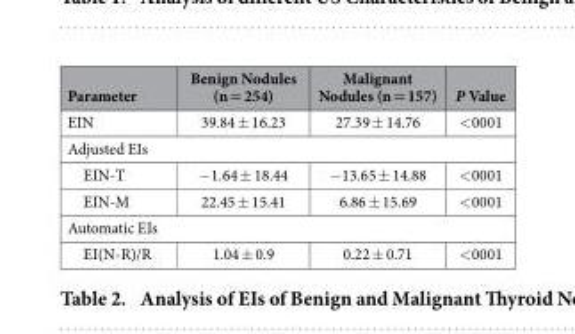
<table><thead><tr><td>Parameter</td><td>Benign Nodules (n = 254)</td><td>Malignant Nodules (n = 157)</td><td>P Value</td></tr></thead><tbody><tr><td>EIN</td><td>39.84 ± 16.23</td><td>27.39 ± 14.76</td><td>&lt; 0001</td></tr><tr><td colspan="4">Adjusted EIs</td></tr><tr><td>EIN-T</td><td>− 1.64 ± 18.44</td><td>− 13.65 ± 14.88</td><td>&lt; 0001</td></tr><tr><td>EIN-M</td><td>22.45 ± 15.41</td><td>6.86 ± 15.69</td><td>&lt; 0001</td></tr><tr><td colspan="4">Automatic EIs</td></tr><tr><td>EI(N-R)/R</td><td>1.04 ± 0.9</td><td>0.22 ± 0.71</td><td>&lt; 0001</td></tr></tbody></table>